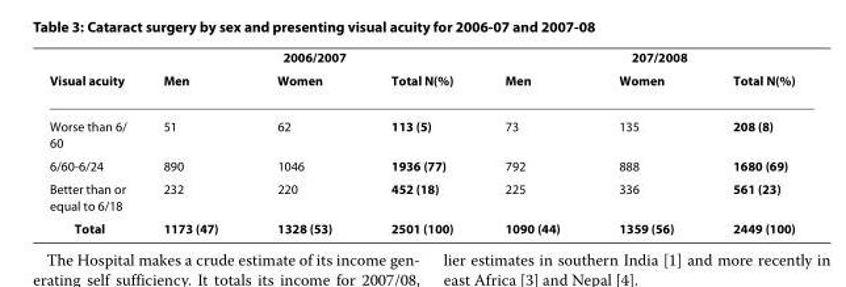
<table><thead><tr><td colspan="4">2006/2007</td><td colspan="3">207/2008</td></tr><tr><td>Visual acuity</td><td>Men</td><td>Women</td><td>Total N(%)</td><td>Men</td><td>Women</td><td>Total N(%)</td></tr></thead><tbody><tr><td>Worse than 6/ 60</td><td>51</td><td>62</td><td>113 (5)</td><td>73</td><td>135</td><td>208 (8)</td></tr><tr><td>6/60-6/24</td><td>890</td><td>1046</td><td>1936 (77)</td><td>792</td><td>888</td><td>1680 (69)</td></tr><tr><td>Better than or equal to 6/18</td><td>232</td><td>220</td><td>452 (18)</td><td>225</td><td>336</td><td>561 (23)</td></tr><tr><td>Total</td><td>1173 (47)</td><td>1328 (53)</td><td>2501 (100)</td><td>1090 (44)</td><td>1359 (56)</td><td>2449 (100)</td></tr></tbody></table>